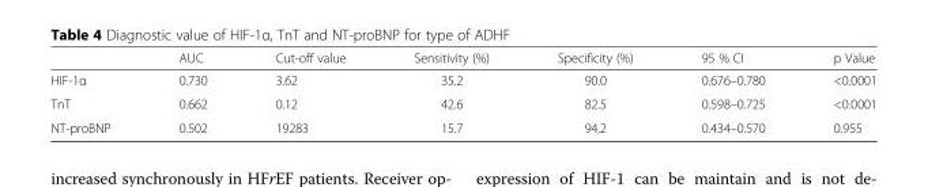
<table><thead><tr><td></td><td>AUC</td><td>Cut-off value</td><td>Sensitivity (%)</td><td>Specificity (%)</td><td>95 % CI</td><td>p Value</td></tr></thead><tbody><tr><td>HIF-1α</td><td>0.730</td><td>3.62</td><td>35.2</td><td>90.0</td><td>0.676–0.780</td><td>&lt;0.0001</td></tr><tr><td>TnT</td><td>0.662</td><td>0.12</td><td>42.6</td><td>82.5</td><td>0.598–0.725</td><td>&lt;0.0001</td></tr><tr><td>NT-proBNP</td><td>0.502</td><td>19283</td><td>15.7</td><td>94.2</td><td>0.434–0.570</td><td>0.955</td></tr></tbody></table>